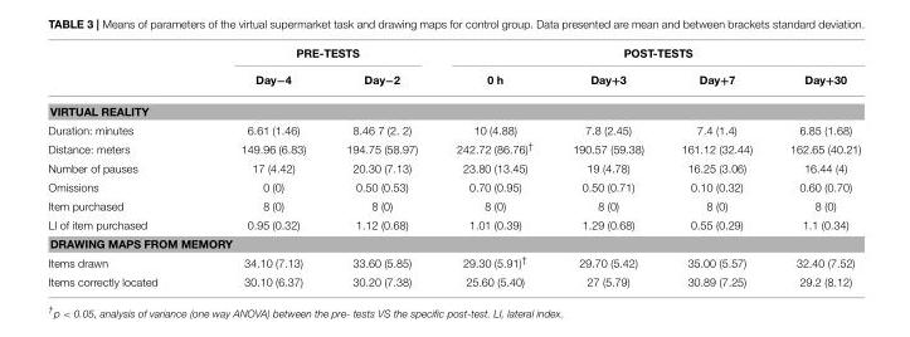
<table><thead><tr><td rowspan="2"></td><td colspan="2">PRE-TESTS</td><td colspan="4">POST-TESTS</td></tr><tr><td>Day−4</td><td>Day−2</td><td>0 h</td><td>Day+3</td><td>Day+7</td><td>Day+30</td></tr></thead><tbody><tr><td colspan="7">VIRTUAL REALITY</td></tr><tr><td>Duration: minutes</td><td>6.61 (1.46)</td><td>8.46 7 (2. 2)</td><td>10 (4.88)</td><td>7.8 (2.45)</td><td>7.4 (1.4)</td><td>6.85 (1.68)</td></tr><tr><td>Distance: meters</td><td>149.96 (6.83)</td><td>194.75 (58.97)</td><td>242.72 (86.76)<sup>†</sup></td><td>190.57 (59.38)</td><td>161.12 (32.44)</td><td>162.65 (40.21)</td></tr><tr><td>Number of pauses</td><td>17 (4.42)</td><td>20.30 (7.13)</td><td>23.80 (13.45)</td><td>19 (4.78)</td><td>16.25 (3.06)</td><td>16.44 (4)</td></tr><tr><td>Omissions</td><td>0 (0)</td><td>0.50 (0.53)</td><td>0.70 (0.95)</td><td>0.50 (0.71)</td><td>0.10 (0.32)</td><td>0.60 (0.70)</td></tr><tr><td>Item purchased</td><td>8 (0)</td><td>8 (0)</td><td>8 (0)</td><td>8 (0)</td><td>8 (0)</td><td>8 (0)</td></tr><tr><td>LI of item purchased</td><td>0.95 (0.32)</td><td>1.12 (0.68)</td><td>1.01 (0.39)</td><td>1.29 (0.68)</td><td>0.55 (0.29)</td><td>1.1 (0.34)</td></tr><tr><td colspan="7">DRAWING MAPS FROM MEMORY</td></tr><tr><td>Items drawn</td><td>34.10 (7.13)</td><td>33.60 (5.85)</td><td>29.30 (5.91)<sup>†</sup></td><td>29.70 (5.42)</td><td>35.00 (5.57)</td><td>32.40 (7.52)</td></tr><tr><td>Items correctly located</td><td>30.10 (6.37)</td><td>30.20 (7.38)</td><td>25.60 (5.40)</td><td>27 (5.79)</td><td>30.89 (7.25)</td><td>29.2 (8.12)</td></tr></tbody></table>